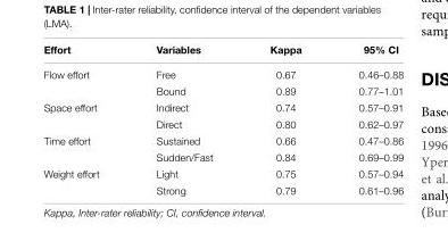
<table><thead><tr><td>Effort</td><td>Variables</td><td>Kappa</td><td>95% CI</td></tr></thead><tbody><tr><td rowspan="2">Flow effort</td><td>Free</td><td>0.67</td><td>0.46–0.88</td></tr><tr><td>Bound</td><td>0.89</td><td>0.77–1.01</td></tr><tr><td rowspan="2">Space effort</td><td>Indirect</td><td>0.74</td><td>0.57–0.91</td></tr><tr><td>Direct</td><td>0.80</td><td>0.62–0.97</td></tr><tr><td rowspan="2">Time effort</td><td>Sustained</td><td>0.66</td><td>0.47–0.86</td></tr><tr><td>Sudden/Fast</td><td>0.84</td><td>0.69–0.99</td></tr><tr><td rowspan="2">Weight effort</td><td>Light</td><td>0.75</td><td>0.57–0.94</td></tr><tr><td>Strong</td><td>0.79</td><td>0.61–0.96</td></tr></tbody></table>